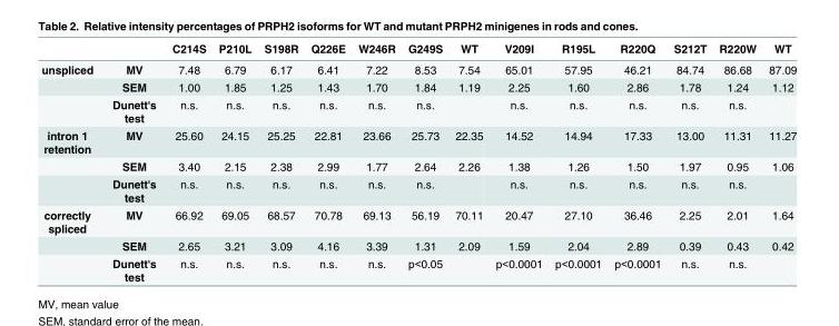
<table><thead><tr><td></td><td></td><td>C214S</td><td>P210L</td><td>S198R</td><td>Q226E</td><td>W246R</td><td>G249S</td><td>WT</td><td>V209I</td><td>R195L</td><td>R220Q</td><td>S212T</td><td>R220W</td><td>WT</td></tr></thead><tbody><tr><td rowspan="3">unspliced</td><td>MV</td><td>7.48</td><td>6.79</td><td>6.17</td><td>6.41</td><td>7.22</td><td>8.53</td><td>7.54</td><td>65.01</td><td>57.95</td><td>46.21</td><td>84.74</td><td>86.68</td><td>87.09</td></tr><tr><td>SEM</td><td>1.00</td><td>1.85</td><td>1.25</td><td>1.43</td><td>1.70</td><td>1.84</td><td>1.19</td><td>2.25</td><td>1.60</td><td>2.86</td><td>1.78</td><td>1.24</td><td>1.12</td></tr><tr><td>Dunett&#x27;s test</td><td>n.s.</td><td>n.s.</td><td>n.s.</td><td>n.s.</td><td>n.s.</td><td>n.s.</td><td></td><td>n.s.</td><td>n.s.</td><td>n.s.</td><td>n.s.</td><td>n.s.</td><td></td></tr><tr><td rowspan="3">intron 1 retention</td><td>MV</td><td>25.60</td><td>24.15</td><td>25.25</td><td>22.81</td><td>23.66</td><td>25.73</td><td>22.35</td><td>14.52</td><td>14.94</td><td>17.33</td><td>13.00</td><td>11.31</td><td>11.27</td></tr><tr><td>SEM</td><td>3.40</td><td>2.15</td><td>2.38</td><td>2.99</td><td>1.77</td><td>2.64</td><td>2.26</td><td>1.38</td><td>1.26</td><td>1.50</td><td>1.97</td><td>0.95</td><td>1.06</td></tr><tr><td>Dunett&#x27;s test</td><td>n.s.</td><td>n.s.</td><td>n.s.</td><td>n.s.</td><td>n.s.</td><td>n.s.</td><td></td><td>n.s.</td><td>n.s.</td><td>n.s.</td><td>n.s.</td><td>n.s.</td><td></td></tr><tr><td rowspan="3">correctly spliced</td><td>MV</td><td>66.92</td><td>69.05</td><td>68.57</td><td>70.78</td><td>69.13</td><td>56.19</td><td>70.11</td><td>20.47</td><td>27.10</td><td>36.46</td><td>2.25</td><td>2.01</td><td>1.64</td></tr><tr><td>SEM</td><td>2.65</td><td>3.21</td><td>3.09</td><td>4.16</td><td>3.39</td><td>1.31</td><td>2.09</td><td>1.59</td><td>2.04</td><td>2.89</td><td>0.39</td><td>0.43</td><td>0.42</td></tr><tr><td>Dunett&#x27;s test</td><td>n.s.</td><td>n.s.</td><td>n.s.</td><td>n.s.</td><td>n.s.</td><td>p&lt;0.05</td><td></td><td>p&lt;0.0001</td><td>p&lt;0.0001</td><td>p&lt;0.0001</td><td>n.s.</td><td>n.s.</td><td></td></tr></tbody></table>